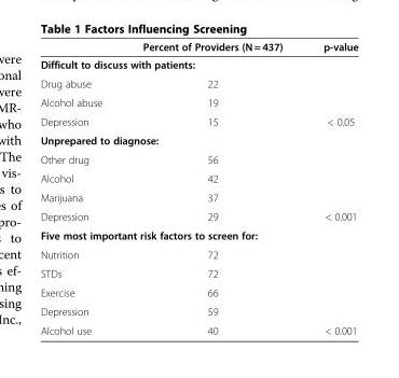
<table><thead><tr><td></td><td>Percent of Providers (N = 437)</td><td>p-value</td></tr></thead><tbody><tr><td colspan="3">Difficult to discuss with patients:</td></tr><tr><td>Drug abuse</td><td>22</td><td></td></tr><tr><td>Alcohol abuse</td><td>19</td><td></td></tr><tr><td>Depression</td><td>15</td><td>&lt; 0.05</td></tr><tr><td colspan="3">Unprepared to diagnose:</td></tr><tr><td>Other drug</td><td>56</td><td></td></tr><tr><td>Alcohol</td><td>42</td><td></td></tr><tr><td>Marijuana</td><td>37</td><td></td></tr><tr><td>Depression</td><td>29</td><td>&lt; 0.001</td></tr><tr><td colspan="3">Five most important risk factors to screen for:</td></tr><tr><td>Nutrition</td><td>72</td><td></td></tr><tr><td>STDs</td><td>72</td><td></td></tr><tr><td>Exercise</td><td>66</td><td></td></tr><tr><td>Depression</td><td>59</td><td></td></tr><tr><td>Alcohol use</td><td>40</td><td>&lt; 0.001</td></tr></tbody></table>